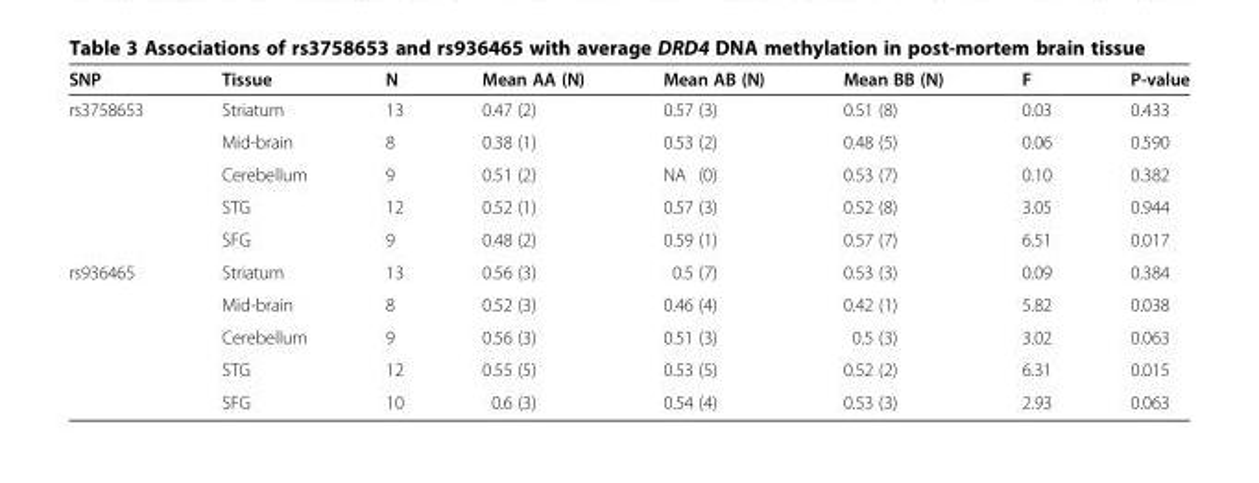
<table><thead><tr><td>SNP</td><td>Tissue</td><td>N</td><td>Mean AA (N)</td><td>Mean AB (N)</td><td>Mean BB (N)</td><td>F</td><td>P-value</td></tr></thead><tbody><tr><td rowspan="5">rs3758653</td><td>Striatum</td><td>13</td><td>0.47 (2)</td><td>0.57 (3)</td><td>0.51 (8)</td><td>0.03</td><td>0.433</td></tr><tr><td>Mid-brain</td><td>8</td><td>0.38 (1)</td><td>0.53 (2)</td><td>0.48 (5)</td><td>0.06</td><td>0.590</td></tr><tr><td>Cerebellum</td><td>9</td><td>0.51 (2)</td><td>NA (0)</td><td>0.53 (7)</td><td>0.10</td><td>0.382</td></tr><tr><td>STG</td><td>12</td><td>0.52 (1)</td><td>0.57 (3)</td><td>0.52 (8)</td><td>3.05</td><td>0.944</td></tr><tr><td>SFG</td><td>9</td><td>0.48 (2)</td><td>0.59 (1)</td><td>0.57 (7)</td><td>6.51</td><td>0.017</td></tr><tr><td rowspan="5">rs936465</td><td>Striatum</td><td>13</td><td>0.56 (3)</td><td>0.5 (7)</td><td>0.53 (3)</td><td>0.09</td><td>0.384</td></tr><tr><td>Mid-brain</td><td>8</td><td>0.52 (3)</td><td>0.46 (4)</td><td>0.42 (1)</td><td>5.82</td><td>0.038</td></tr><tr><td>Cerebellum</td><td>9</td><td>0.56 (3)</td><td>0.51 (3)</td><td>0.5 (3)</td><td>3.02</td><td>0.063</td></tr><tr><td>STG</td><td>12</td><td>0.55 (5)</td><td>0.53 (5)</td><td>0.52 (2)</td><td>6.31</td><td>0.015</td></tr><tr><td>SFG</td><td>10</td><td>0.6 (3)</td><td>0.54 (4)</td><td>0.53 (3)</td><td>2.93</td><td>0.063</td></tr></tbody></table>